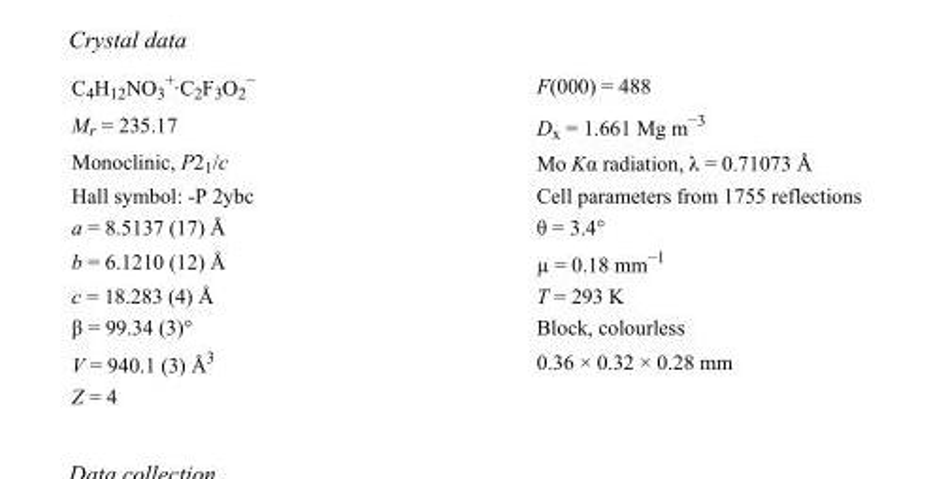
<table><tbody><tr><td>C<sub>4</sub>H<sub>12</sub>NO<sub>3</sub> <sup>+</sup>·C<sub>2</sub>F<sub>3</sub>O<sub>2</sub> <sup>−</sup></td><td>F(000) = 488</td></tr><tr><td>M<sub>r</sub> = 235.17</td><td>D<sub>x</sub> = 1.661 Mg m<sup>−3</sup></td></tr><tr><td>Monoclinic, P2<sub>1</sub>/c</td><td>Mo Kα radiation, λ = 0.71073 Å</td></tr><tr><td>Hall symbol: -P 2ybc</td><td>Cell parameters from 1755 reflections</td></tr><tr><td>a = 8.5137 (17) Å</td><td>θ = 3.4°</td></tr><tr><td>b = 6.1210 (12) Å</td><td>µ = 0.18 mm<sup>−1</sup></td></tr><tr><td>c = 18.283 (4) Å</td><td>T = 293 K</td></tr><tr><td>β = 99.34 (3)°</td><td>Block, colourless</td></tr><tr><td>V = 940.1 (3) Å<sup>3</sup></td><td>0.36 × 0.32 × 0.28 mm</td></tr><tr><td>Z = 4</td><td></td></tr></tbody></table>